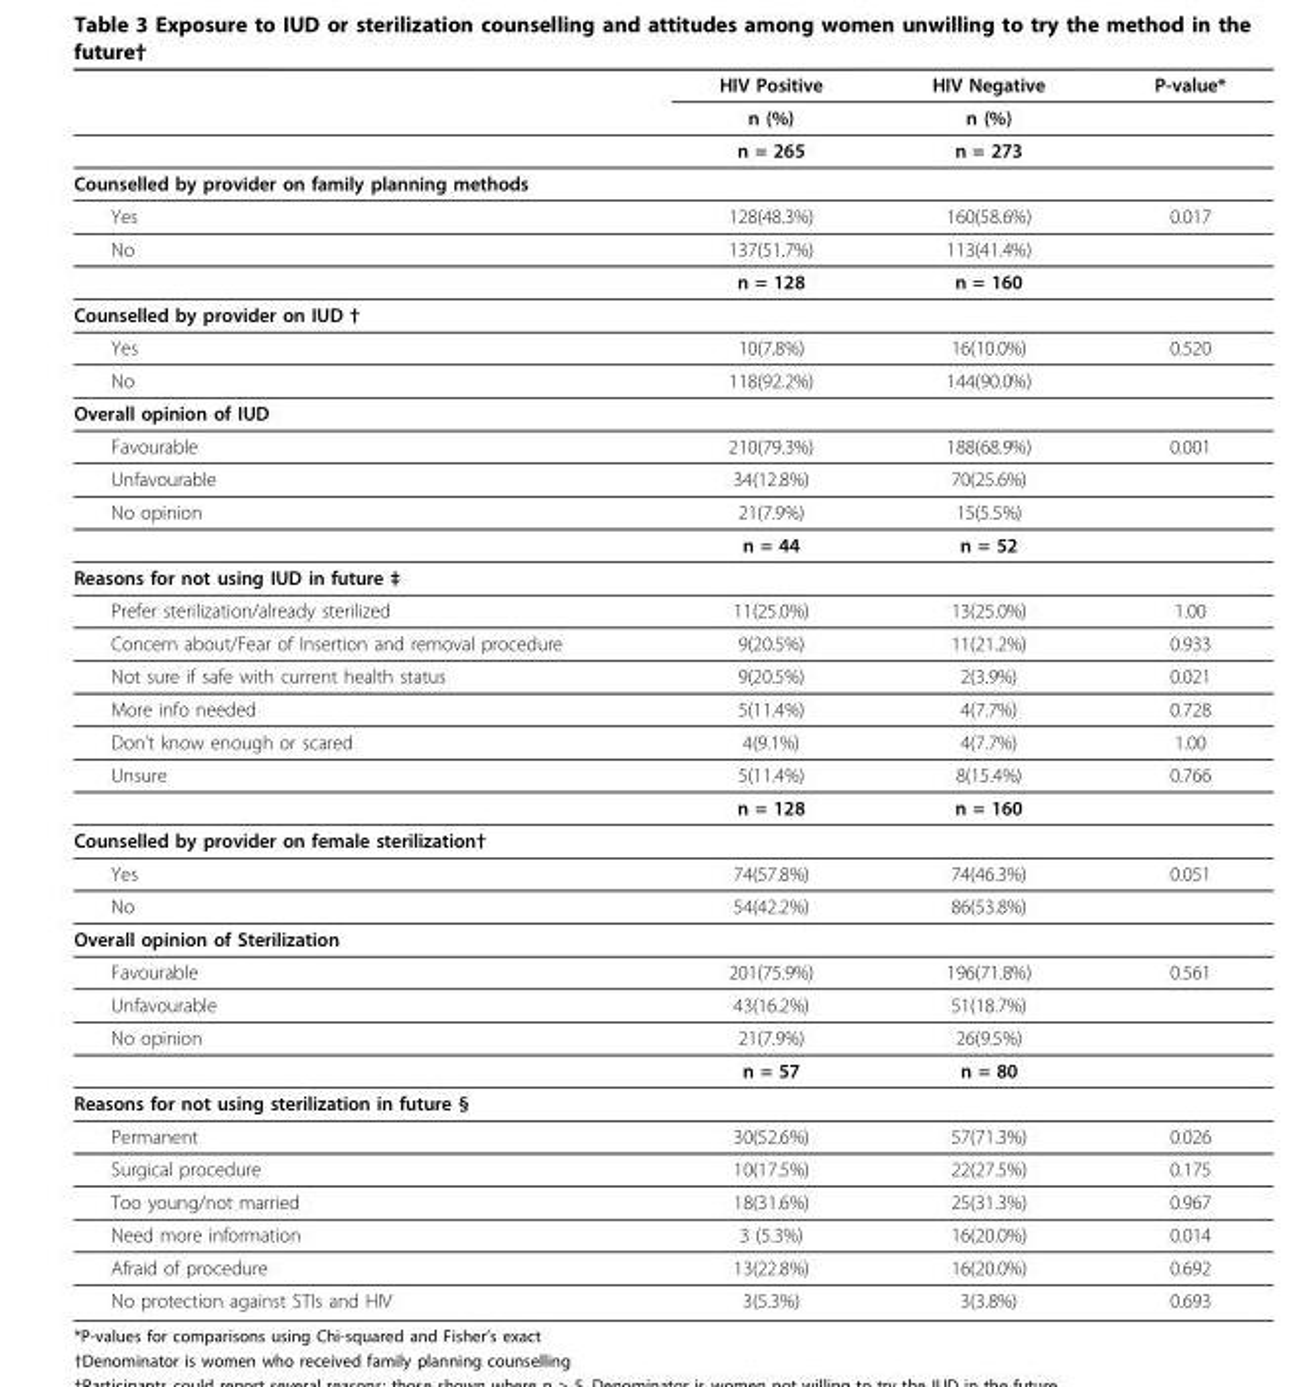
<table><thead><tr><td rowspan="2"></td><td rowspan="2">HIV Positive n (%)</td><td rowspan="2">HIV Negative n (%)</td><td rowspan="2">P-value*</td></tr><tr></tr></thead><tbody><tr><td></td><td>n = 265</td><td>n = 273</td><td></td></tr><tr><td colspan="4">Counselled by provider on family planning methods</td></tr><tr><td>Yes</td><td>128(48.3%)</td><td>160(58.6%)</td><td>0.017</td></tr><tr><td rowspan="2">No</td><td>137(51.7%)</td><td>113(41.4%)</td><td></td></tr><tr><td>n = 128</td><td>n = 160</td><td></td></tr><tr><td colspan="4">Counselled by provider on IUD †</td></tr><tr><td>Yes</td><td>10(7.8%)</td><td>16(10.0%)</td><td>0.520</td></tr><tr><td>No</td><td>118(92.2%)</td><td>144(90.0%)</td><td></td></tr><tr><td colspan="4">Overall opinion of IUD</td></tr><tr><td>Favourable</td><td>210(79.3%)</td><td>188(68.9%)</td><td>0.001</td></tr><tr><td>Unfavourable</td><td>34(12.8%)</td><td>70(25.6%)</td><td></td></tr><tr><td rowspan="2">No opinion</td><td>21(7.9%)</td><td>15(5.5%)</td><td></td></tr><tr><td>n = 44</td><td>n = 52</td><td></td></tr><tr><td colspan="4">Reasons for not using IUD in future ‡</td></tr><tr><td>Prefer sterilization/already sterilized</td><td>11(25.0%)</td><td>13(25.0%)</td><td>1.00</td></tr><tr><td>Concern about/Fear of Insertion and removal procedure</td><td>9(20.5%)</td><td>11(21.2%)</td><td>0.933</td></tr><tr><td>Not sure if safe with current health status</td><td>9(20.5%)</td><td>2(3.9%)</td><td>0.021</td></tr><tr><td>More info needed</td><td>5(11.4%)</td><td>4(7.7%)</td><td>0.728</td></tr><tr><td>Don’t know enough or scared</td><td>4(9.1%)</td><td>4(7.7%)</td><td>1.00</td></tr><tr><td rowspan="2">Unsure</td><td>5(11.4%)</td><td>8(15.4%)</td><td>0.766</td></tr><tr><td>n = 128</td><td>n = 160</td><td></td></tr><tr><td colspan="4">Counselled by provider on female sterilization†</td></tr><tr><td>Yes</td><td>74(57.8%)</td><td>74(46.3%)</td><td>0.051</td></tr><tr><td>No</td><td>54(42.2%)</td><td>86(53.8%)</td><td></td></tr><tr><td colspan="4">Overall opinion of Sterilization</td></tr><tr><td>Favourable</td><td>201(75.9%)</td><td>196(71.8%)</td><td>0.561</td></tr><tr><td>Unfavourable</td><td>43(16.2%)</td><td>51(18.7%)</td><td></td></tr><tr><td rowspan="2">No opinion</td><td>21(7.9%)</td><td>26(9.5%)</td><td></td></tr><tr><td>n = 57</td><td>n = 80</td><td></td></tr><tr><td colspan="4">Reasons for not using sterilization in future §</td></tr><tr><td>Permanent</td><td>30(52.6%)</td><td>57(71.3%)</td><td>0.026</td></tr><tr><td>Surgical procedure</td><td>10(17.5%)</td><td>22(27.5%)</td><td>0.175</td></tr><tr><td>Too young/not married</td><td>18(31.6%)</td><td>25(31.3%)</td><td>0.967</td></tr><tr><td>Need more information</td><td>3 (5.3%)</td><td>16(20.0%)</td><td>0.014</td></tr><tr><td>Afraid of procedure</td><td>13(22.8%)</td><td>16(20.0%)</td><td>0.692</td></tr><tr><td>No protection against STIs and HIV</td><td>3(5.3%)</td><td>3(3.8%)</td><td>0.693</td></tr></tbody></table>